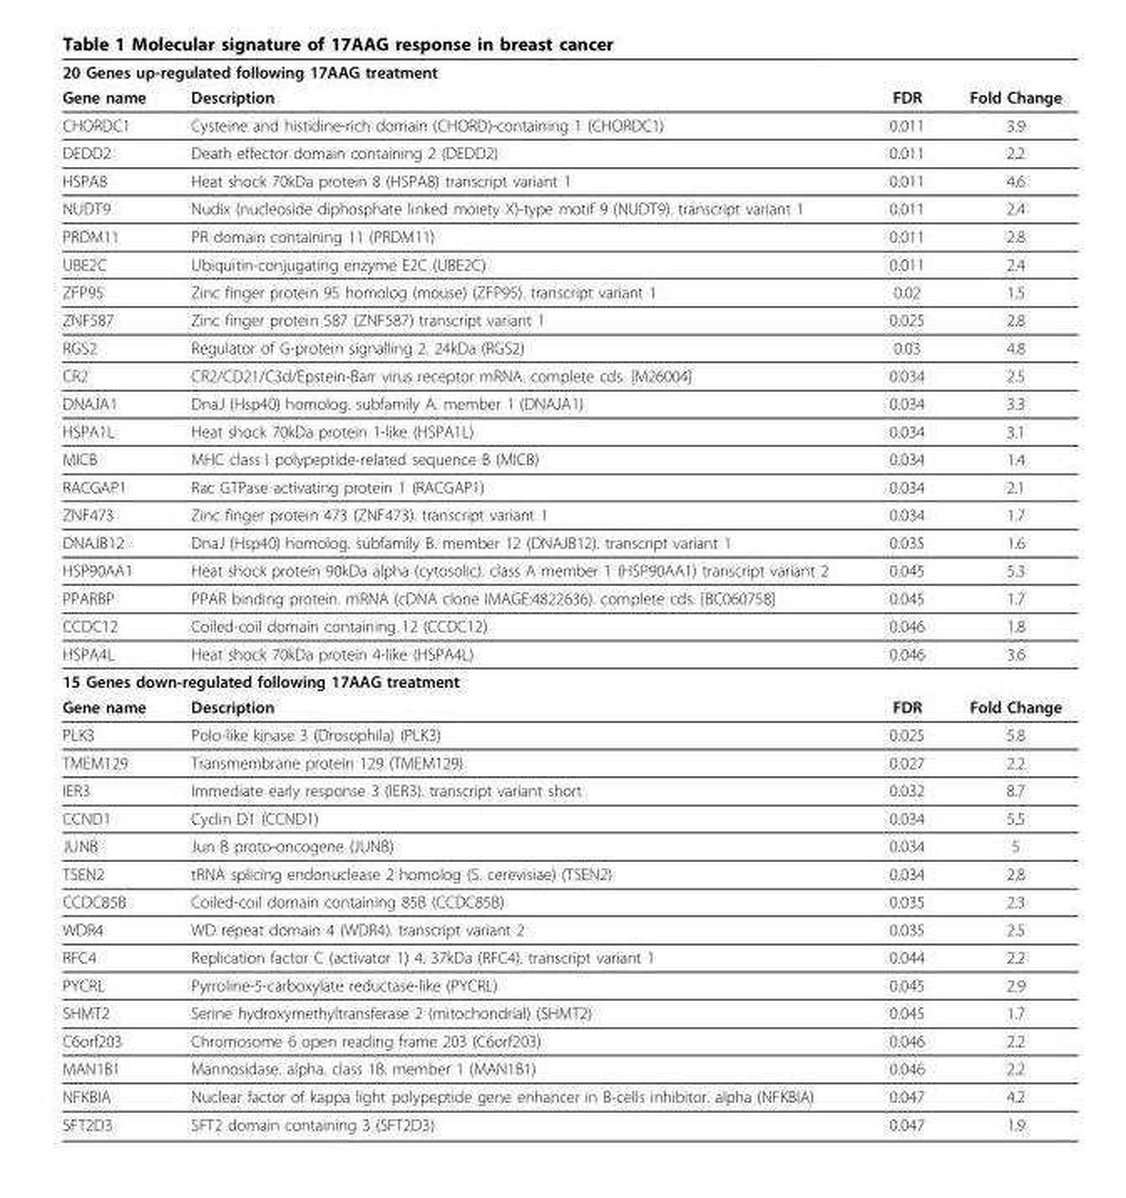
<table><thead><tr><td colspan="4">20 Genes up-regulated following 17AAG treatment</td></tr><tr><td>Gene name</td><td>Description</td><td>FDR</td><td>Fold Change</td></tr></thead><tbody><tr><td>CHORDC1</td><td>Cysteine and histidine-rich domain (CHORD)-containing 1 (CHORDC1)</td><td>0.011</td><td>3.9</td></tr><tr><td>DEDD2</td><td>Death effector domain containing 2 (DEDD2)</td><td>0.011</td><td>2.2</td></tr><tr><td>HSPA8</td><td>Heat shock 70kDa protein 8 (HSPA8) transcript variant 1</td><td>0.011</td><td>4.6</td></tr><tr><td>NUDT9</td><td>Nudix (nucleoside diphosphate linked moiety X)-type motif 9 (NUDT9). transcript variant 1</td><td>0.011</td><td>2.4</td></tr><tr><td>PRDM11</td><td>PR domain containing 11 (PRDM11)</td><td>0.011</td><td>2.8</td></tr><tr><td>UBE2C</td><td>Ubiquitin-conjugating enzyme E2C (UBE2C)</td><td>0.011</td><td>2.4</td></tr><tr><td>ZFP95</td><td>Zinc finger protein 95 homolog (mouse) (ZFP95). transcript variant 1</td><td>0.02</td><td>1.5</td></tr><tr><td>ZNF587</td><td>Zinc finger protein 587 (ZNF587) transcript variant 1</td><td>0.025</td><td>2.8</td></tr><tr><td>RGS2</td><td>Regulator of G-protein signalling 2. 24kDa (RGS2)</td><td>0.03</td><td>4.8</td></tr><tr><td>CR2</td><td>CR2/CD21/C3d/Epstein-Barr virus receptor mRNA. complete cds. [M26004]</td><td>0.034</td><td>2.5</td></tr><tr><td>DNAJA1</td><td>DnaJ (Hsp40) homolog. subfamily A. member 1 (DNAJA1)</td><td>0.034</td><td>3.3</td></tr><tr><td>HSPA1L</td><td>Heat shock 70kDa protein 1-like (HSPA1L)</td><td>0.034</td><td>3.1</td></tr><tr><td>MICB</td><td>MHC class I polypeptide-related sequence B (MICB)</td><td>0.034</td><td>1.4</td></tr><tr><td>RACGAP1</td><td>Rac GTPase activating protein 1 (RACGAP1)</td><td>0.034</td><td>2.1</td></tr><tr><td>ZNF473</td><td>Zinc finger protein 473 (ZNF473). transcript variant 1</td><td>0.034</td><td>1.7</td></tr><tr><td>DNAJB12</td><td>DnaJ (Hsp40) homolog. subfamily B. member 12 (DNAJB12). transcript variant 1</td><td>0.035</td><td>1.6</td></tr><tr><td>HSP90AA1</td><td>Heat shock protein 90kDa alpha (cytosolic). class A member 1 (HSP90AA1) transcript variant 2</td><td>0.045</td><td>5.3</td></tr><tr><td>PPARBP</td><td>PPAR binding protein. mRNA (cDNA clone IMAGE:4822636). complete cds. [BC060758]</td><td>0.045</td><td>1.7</td></tr><tr><td>CCDC12</td><td>Coiled-coil domain containing 12 (CCDC12)</td><td>0.046</td><td>1.8</td></tr><tr><td>HSPA4L</td><td>Heat shock 70kDa protein 4-like (HSPA4L)</td><td>0.046</td><td>3.6</td></tr><tr><td colspan="4">15 Genes down-regulated following 17AAG treatment</td></tr><tr><td>Gene name</td><td>Description</td><td>FDR</td><td>Fold Change</td></tr><tr><td>PLK3</td><td>Polo-like kinase 3 (Drosophila) (PLK3)</td><td>0.025</td><td>5.8</td></tr><tr><td>TMEM129</td><td>Transmembrane protein 129 (TMEM129)</td><td>0.027</td><td>2.2</td></tr><tr><td>IER3</td><td>Immediate early response 3 (IER3). transcript variant short</td><td>0.032</td><td>8.7</td></tr><tr><td>CCND1</td><td>Cyclin D1 (CCND1)</td><td>0.034</td><td>5.5</td></tr><tr><td>JUNB</td><td>Jun B proto-oncogene (JUNB)</td><td>0.034</td><td>5</td></tr><tr><td>TSEN2</td><td>tRNA splicing endonuclease 2 homolog (S. cerevisiae) (TSEN2)</td><td>0.034</td><td>2.8</td></tr><tr><td>CCDC85B</td><td>Coiled-coil domain containing 85B (CCDC85B)</td><td>0.035</td><td>2.3</td></tr><tr><td>WDR4</td><td>WD repeat domain 4 (WDR4). transcript variant 2</td><td>0.035</td><td>2.5</td></tr><tr><td>RFC4</td><td>Replication factor C (activator 1) 4. 37kDa (RFC4). transcript variant 1</td><td>0.044</td><td>2.2</td></tr><tr><td>PYCRL</td><td>Pyrroline-5-carboxylate reductase-like (PYCRL)</td><td>0.045</td><td>2.9</td></tr><tr><td>SHMT2</td><td>Serine hydroxymethyltransferase 2 (mitochondrial) (SHMT2)</td><td>0.045</td><td>1.7</td></tr><tr><td>C6orf203</td><td>Chromosome 6 open reading frame 203 (C6orf203)</td><td>0.046</td><td>2.2</td></tr><tr><td>MAN1B1</td><td>Mannosidase. alpha. class 1B. member 1 (MAN1B1)</td><td>0.046</td><td>2.2</td></tr><tr><td>NFKBIA</td><td>Nuclear factor of kappa light polypeptide gene enhancer in B-cells inhibitor. alpha (NFKBIA)</td><td>0.047</td><td>4.2</td></tr><tr><td>SFT2D3</td><td>SFT2 domain containing 3 (SFT2D3)</td><td>0.047</td><td>1.9</td></tr></tbody></table>